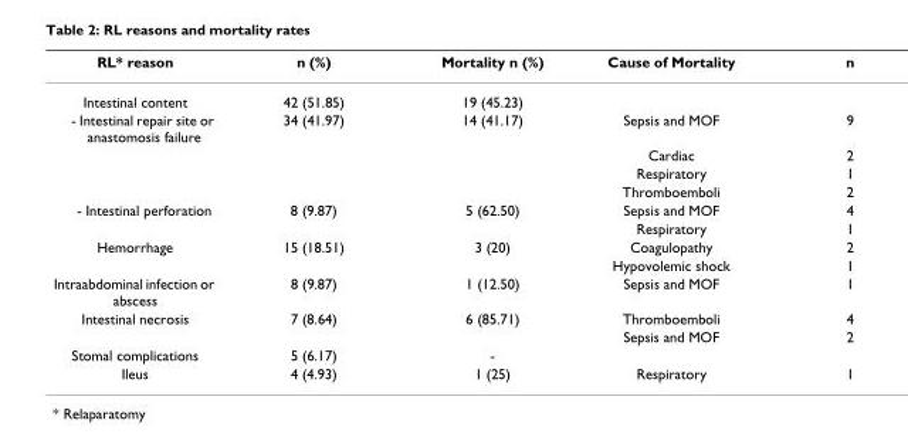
<table><thead><tr><td>RL* reason</td><td>n (%)</td><td>Mortality n (%)</td><td>Cause of Mortality</td><td>n</td></tr></thead><tbody><tr><td>Intestinal content</td><td>42 (51.85)</td><td>19 (45.23)</td><td></td><td></td></tr><tr><td rowspan="4">- Intestinal repair site or anastomosis failure</td><td>34 (41.97)</td><td>14 (41.17)</td><td>Sepsis and MOF</td><td>9</td></tr><tr><td></td><td></td><td>Cardiac</td><td>2</td></tr><tr><td></td><td></td><td>Respiratory</td><td>1</td></tr><tr><td></td><td></td><td>Thromboemboli</td><td>2</td></tr><tr><td rowspan="2">- Intestinal perforation</td><td>8 (9.87)</td><td>5 (62.50)</td><td>Sepsis and MOF</td><td>4</td></tr><tr><td></td><td></td><td>Respiratory</td><td>1</td></tr><tr><td rowspan="2">Hemorrhage</td><td>15 (18.51)</td><td>3 (20)</td><td>Coagulopathy</td><td>2</td></tr><tr><td></td><td></td><td>Hypovolemic shock</td><td>1</td></tr><tr><td>Intraabdominal infection or abscess</td><td>8 (9.87)</td><td>1 (12.50)</td><td>Sepsis and MOF</td><td>1</td></tr><tr><td rowspan="2">Intestinal necrosis</td><td>7 (8.64)</td><td>6 (85.71)</td><td>Thromboemboli</td><td>4</td></tr><tr><td></td><td></td><td>Sepsis and MOF</td><td>2</td></tr><tr><td>Stomal complications</td><td>5 (6.17)</td><td>-</td><td></td><td></td></tr><tr><td>Ileus</td><td>4 (4.93)</td><td>1 (25)</td><td>Respiratory</td><td>1</td></tr></tbody></table>